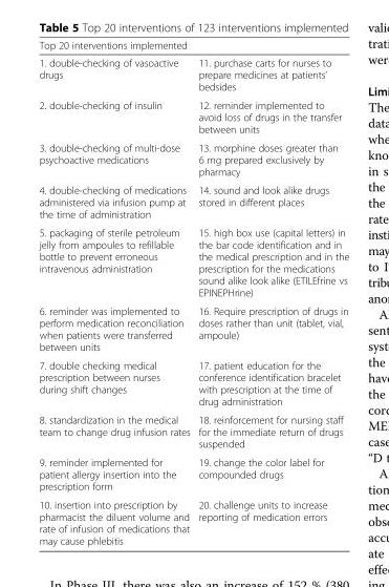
<table><thead><tr><td colspan="2">Top 20 interventions implemented</td></tr><tr><td>1. double-checking of vasoactive drugs</td><td>11. purchase carts for nurses to prepare medicines at patients’ bedsides</td></tr></thead><tbody><tr><td>2. double-checking of insulin</td><td>12. reminder implemented to avoid loss of drugs in the transfer between units</td></tr><tr><td>3. double-checking of multi-dose psychoactive medications</td><td>13. morphine doses greater than 6 mg prepared exclusively by pharmacy</td></tr><tr><td>4. double-checking of medications administered via infusion pump at the time of administration</td><td>14. sound and look alike drugs stored in different places</td></tr><tr><td>5. packaging of sterile petroleum jelly from ampoules to refillable bottle to prevent erroneous intravenous administration</td><td>15. high box use (capital letters) in the bar code identification and in the medical prescription and in the prescription for the medications sound alike look alike (ETILEfrine vs EPINEPHrine)</td></tr><tr><td>6. reminder was implemented to perform medication reconciliation when patients were transferred between units</td><td>16. Require prescription of drugs in doses rather than unit (tablet, vial, ampoule)</td></tr><tr><td>7. double checking medical prescription between nurses during shift changes</td><td>17. patient education for the conference identification bracelet with prescription at the time of drug administration</td></tr><tr><td>8. standardization in the medical team to change drug infusion rates</td><td>18. reinforcement for nursing staff for the immediate return of drugs suspended</td></tr><tr><td>9. reminder implemented for patient allergy insertion into the prescription form</td><td>19. change the color label for compounded drugs</td></tr><tr><td>10. insertion into prescription by pharmacist the diluent volume and rate of infusion of medications that may cause phlebitis</td><td>20. challenge units to increase reporting of medication errors</td></tr></tbody></table>